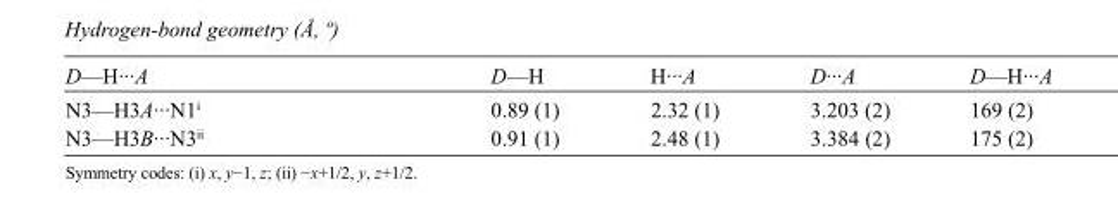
<table><tbody><tr><td>D—H···A</td><td>D—H</td><td>H···A</td><td>D···A</td><td>D—H···A</td></tr><tr><td>N3—H3A···N1<sup>i</sup></td><td>0.89 (1)</td><td>2.32 (1)</td><td>3.203 (2)</td><td>169 (2)</td></tr><tr><td>N3—H3B···N3<sup>ii</sup></td><td>0.91 (1)</td><td>2.48 (1)</td><td>3.384 (2)</td><td>175 (2)</td></tr></tbody></table>